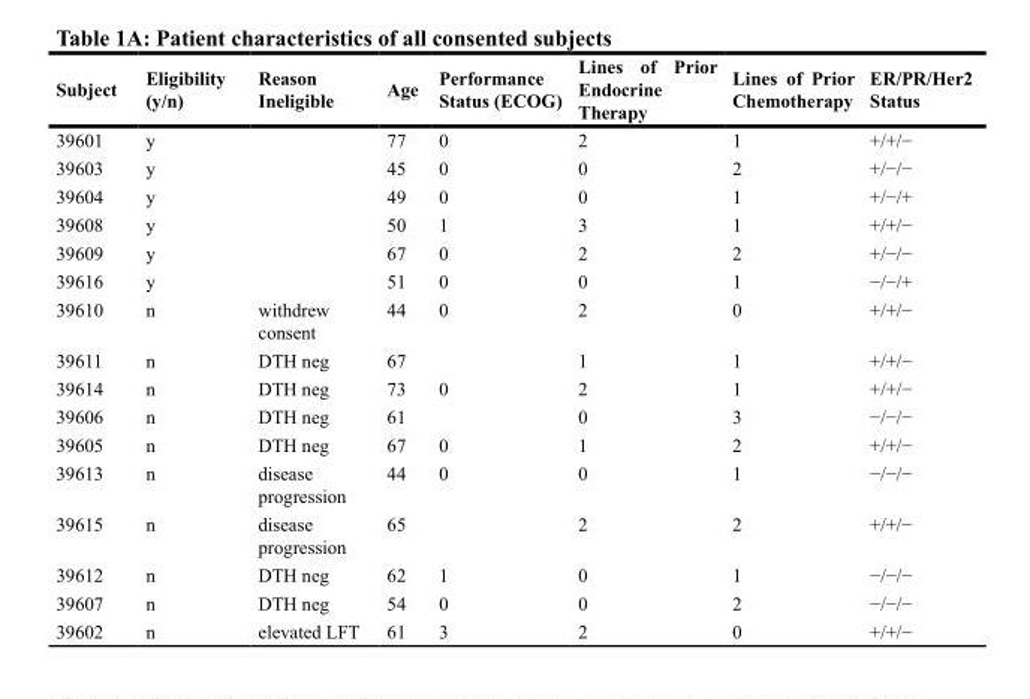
<table><thead><tr><td>Subject</td><td>Eligibility (y/n)</td><td>Reason Ineligible</td><td>Age</td><td>Performance Status (ECOG)</td><td>Lines of Prior Endocrine Therapy</td><td>Lines of Prior Chemotherapy</td><td>ER/PR/Her2 Status</td></tr></thead><tbody><tr><td>39601</td><td>y</td><td></td><td>77</td><td>0</td><td>2</td><td>1</td><td>+/+/−</td></tr><tr><td>39603</td><td>y</td><td></td><td>45</td><td>0</td><td>0</td><td>2</td><td>+/−/−</td></tr><tr><td>39604</td><td>y</td><td></td><td>49</td><td>0</td><td>0</td><td>1</td><td>+/−/+</td></tr><tr><td>39608</td><td>y</td><td></td><td>50</td><td>1</td><td>3</td><td>1</td><td>+/+/−</td></tr><tr><td>39609</td><td>y</td><td></td><td>67</td><td>0</td><td>2</td><td>2</td><td>+/−/−</td></tr><tr><td>39616</td><td>y</td><td></td><td>51</td><td>0</td><td>0</td><td>1</td><td>−/−/+</td></tr><tr><td>39610</td><td>n</td><td>withdrew consent</td><td>44</td><td>0</td><td>2</td><td>0</td><td>+/+/−</td></tr><tr><td>39611</td><td>n</td><td>DTH neg</td><td>67</td><td></td><td>1</td><td>1</td><td>+/+/−</td></tr><tr><td>39614</td><td>n</td><td>DTH neg</td><td>73</td><td>0</td><td>2</td><td>1</td><td>+/+/−</td></tr><tr><td>39606</td><td>n</td><td>DTH neg</td><td>61</td><td></td><td>0</td><td>3</td><td>−/−/−</td></tr><tr><td>39605</td><td>n</td><td>DTH neg</td><td>67</td><td>0</td><td>1</td><td>2</td><td>+/+/−</td></tr><tr><td>39613</td><td>n</td><td>disease progression</td><td>44</td><td>0</td><td>0</td><td>1</td><td>−/−/−</td></tr><tr><td>39615</td><td>n</td><td>disease progression</td><td>65</td><td></td><td>2</td><td>2</td><td>+/+/−</td></tr><tr><td>39612</td><td>n</td><td>DTH neg</td><td>62</td><td>1</td><td>0</td><td>1</td><td>−/−/−</td></tr><tr><td>39607</td><td>n</td><td>DTH neg</td><td>54</td><td>0</td><td>0</td><td>2</td><td>−/−/−</td></tr><tr><td>39602</td><td>n</td><td>elevated LFT</td><td>61</td><td>3</td><td>2</td><td>0</td><td>+/+/−</td></tr></tbody></table>